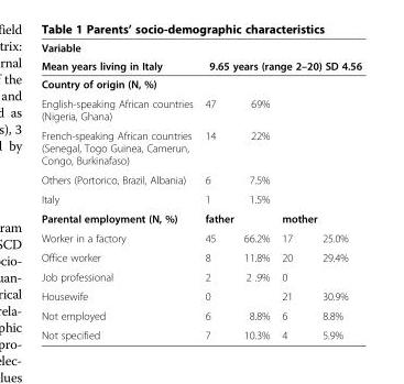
<table><thead><tr><td rowspan="2">Variable Mean years living in Italy</td><td></td><td></td><td></td><td></td></tr><tr><td colspan="4">9.65 years (range 2–20) SD 4.56</td></tr></thead><tbody><tr><td colspan="5">Country of origin (N, %)</td></tr><tr><td>English-speaking African countries (Nigeria, Ghana)</td><td>47</td><td>69%</td><td></td><td></td></tr><tr><td>French-speaking African countries (Senegal, Togo Guinea, Camerun, Congo, Burkinafaso)</td><td>14</td><td>22%</td><td></td><td></td></tr><tr><td>Others (Portorico, Brazil, Albania)</td><td>6</td><td>7.5%</td><td></td><td></td></tr><tr><td>Italy</td><td>1</td><td>1.5%</td><td></td><td></td></tr><tr><td>Parental employment (N, %)</td><td colspan="2">father</td><td colspan="2">mother</td></tr><tr><td>Worker in a factory</td><td>45</td><td>66.2%</td><td>17</td><td>25.0%</td></tr><tr><td>Office worker</td><td>8</td><td>11.8%</td><td>20</td><td>29.4%</td></tr><tr><td>Job professional</td><td>2</td><td>2 .9%</td><td>0</td><td></td></tr><tr><td>Housewife</td><td>0</td><td></td><td>21</td><td>30.9%</td></tr><tr><td>Not employed</td><td>6</td><td>8.8%</td><td>6</td><td>8.8%</td></tr><tr><td>Not specified</td><td>7</td><td>10.3%</td><td>4</td><td>5.9%</td></tr></tbody></table>